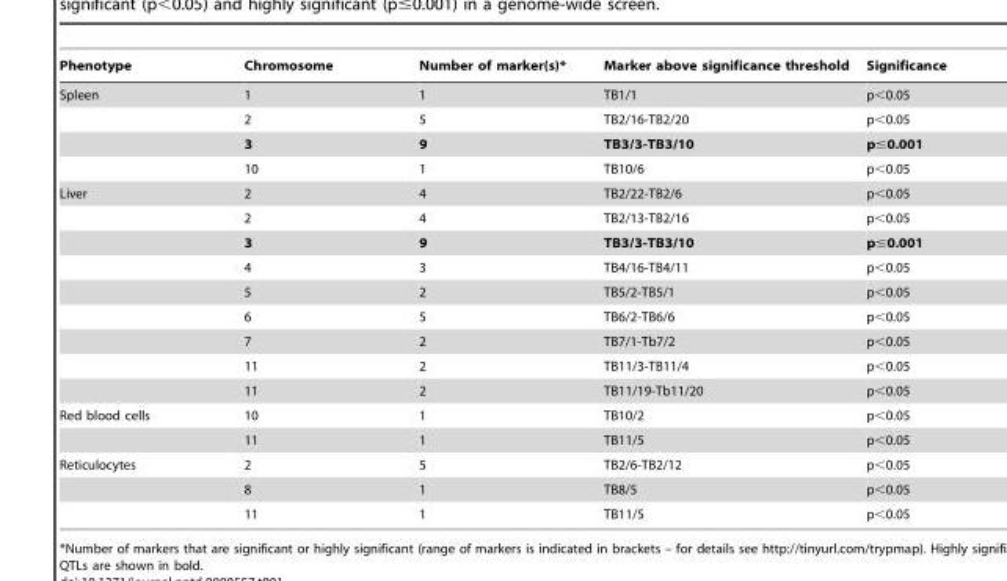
<table><thead><tr><td>Phenotype</td><td>Chromosome</td><td>Number of marker(s)*</td><td>Marker above significance threshold</td><td>Significance</td></tr></thead><tbody><tr><td rowspan="4">Spleen</td><td>1</td><td>1</td><td>TB1/1</td><td>p&lt;0.05</td></tr><tr><td>2</td><td>5</td><td>TB2/16-TB2/20</td><td>p&lt;0.05</td></tr><tr><td>3</td><td>9</td><td>TB3/3-TB3/10</td><td>p≤0.001</td></tr><tr><td>10</td><td>1</td><td>TB10/6</td><td>p&lt;0.05</td></tr><tr><td rowspan="9">Liver</td><td>2</td><td>4</td><td>TB2/22-TB2/6</td><td>p&lt;0.05</td></tr><tr><td>2</td><td>4</td><td>TB2/13-TB2/16</td><td>p&lt;0.05</td></tr><tr><td>3</td><td>9</td><td>TB3/3-TB3/10</td><td>p≤0.001</td></tr><tr><td>4</td><td>3</td><td>TB4/16-TB4/11</td><td>p&lt;0.05</td></tr><tr><td>5</td><td>2</td><td>TB5/2-TB5/1</td><td>p&lt;0.05</td></tr><tr><td>6</td><td>5</td><td>TB6/2-TB6/6</td><td>p&lt;0.05</td></tr><tr><td>7</td><td>2</td><td>TB7/1-Tb7/2</td><td>p&lt;0.05</td></tr><tr><td>11</td><td>2</td><td>TB11/3-TB11/4</td><td>p&lt;0.05</td></tr><tr><td>11</td><td>2</td><td>TB11/19-Tb11/20</td><td>p&lt;0.05</td></tr><tr><td rowspan="2">Red blood cells</td><td>10</td><td>1</td><td>TB10/2</td><td>p&lt;0.05</td></tr><tr><td>11</td><td>1</td><td>TB11/5</td><td>p&lt;0.05</td></tr><tr><td rowspan="3">Reticulocytes</td><td>2</td><td>5</td><td>TB2/6-TB2/12</td><td>p&lt;0.05</td></tr><tr><td>8</td><td>1</td><td>TB8/5</td><td>p&lt;0.05</td></tr><tr><td>11</td><td>1</td><td>TB11/5</td><td>p&lt;0.05</td></tr></tbody></table>